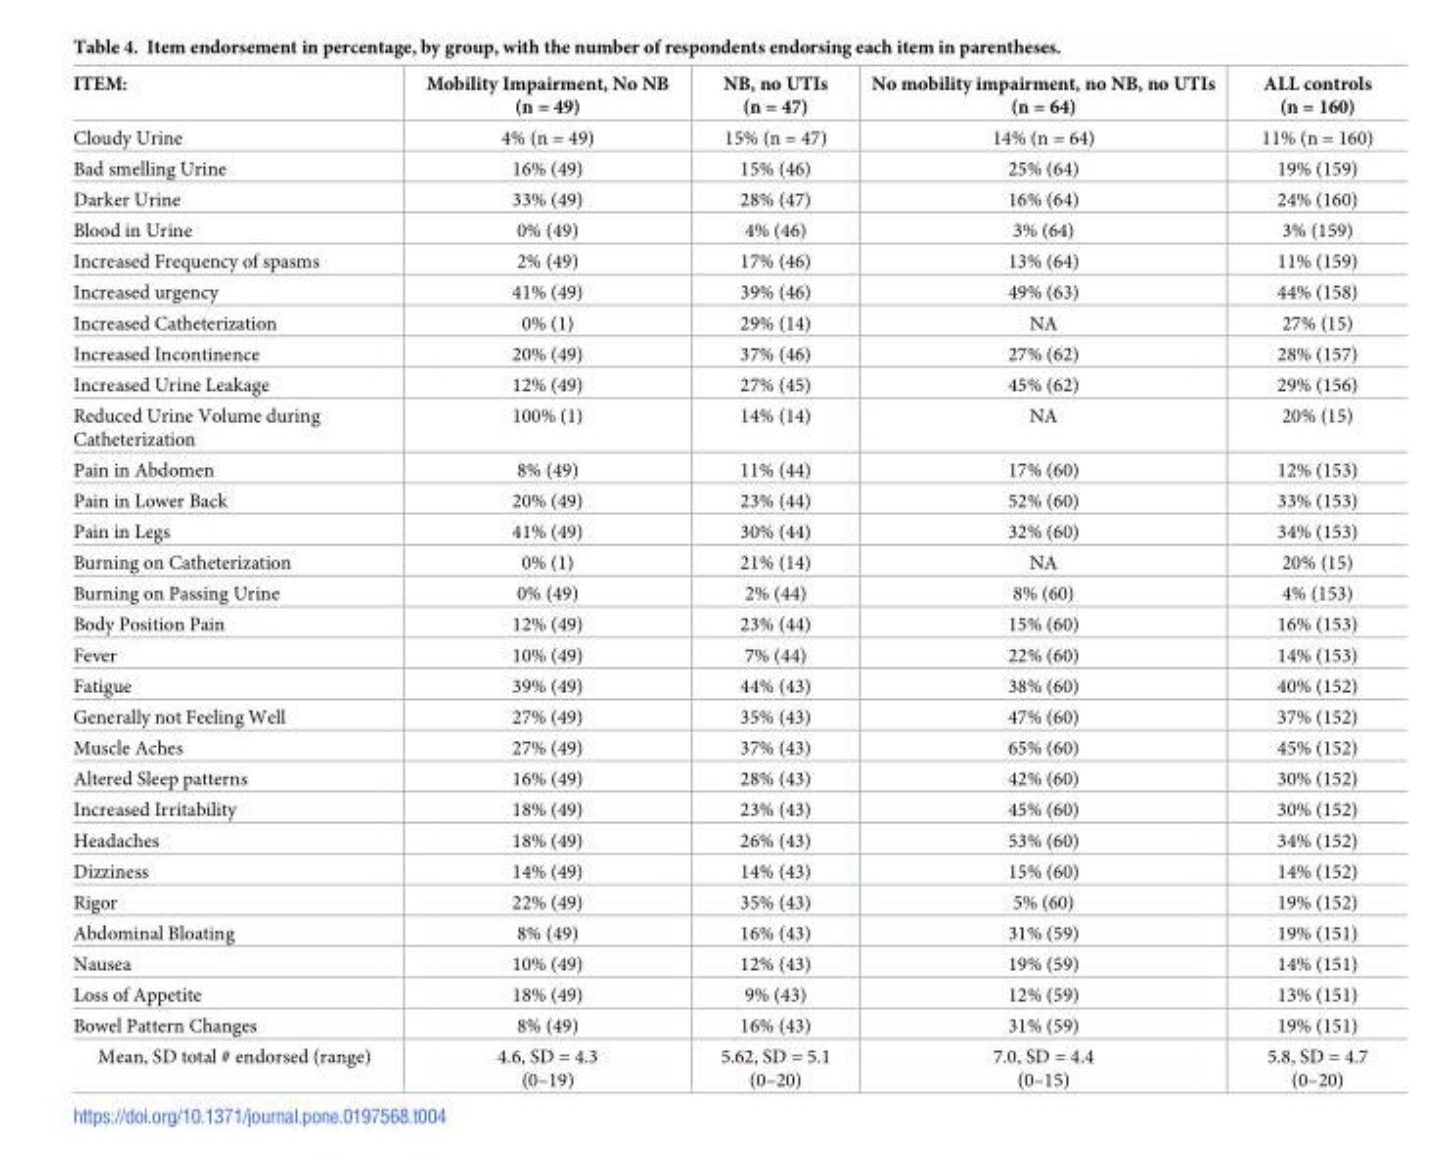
<table><thead><tr><td>ITEM:</td><td>Mobility Impairment, No NB (n = 49)</td><td>NB, no UTIs (n = 47)</td><td>No mobility impairment, no NB, no UTIs (n = 64)</td><td>ALL controls (n = 160)</td></tr></thead><tbody><tr><td>Cloudy Urine</td><td>4% (n = 49)</td><td>15% (n = 47)</td><td>14% (n = 64)</td><td>11% (n = 160)</td></tr><tr><td>Bad smelling Urine</td><td>16% (49)</td><td>15% (46)</td><td>25% (64)</td><td>19% (159)</td></tr><tr><td>Darker Urine</td><td>33% (49)</td><td>28% (47)</td><td>16% (64)</td><td>24% (160)</td></tr><tr><td>Blood in Urine</td><td>0% (49)</td><td>4% (46)</td><td>3% (64)</td><td>3% (159)</td></tr><tr><td>Increased Frequency of spasms</td><td>2% (49)</td><td>17% (46)</td><td>13% (64)</td><td>11% (159)</td></tr><tr><td>Increased urgency</td><td>41% (49)</td><td>39% (46)</td><td>49% (63)</td><td>44% (158)</td></tr><tr><td>Increased Catheterization</td><td>0% (1)</td><td>29% (14)</td><td>NA</td><td>27% (15)</td></tr><tr><td>Increased Incontinence</td><td>20% (49)</td><td>37% (46)</td><td>27% (62)</td><td>28% (157)</td></tr><tr><td>Increased Urine Leakage</td><td>12% (49)</td><td>27% (45)</td><td>45% (62)</td><td>29% (156)</td></tr><tr><td>Reduced Urine Volume during Catheterization</td><td>100% (1)</td><td>14% (14)</td><td>NA</td><td>20% (15)</td></tr><tr><td>Pain in Abdomen</td><td>8% (49)</td><td>11% (44)</td><td>17% (60)</td><td>12% (153)</td></tr><tr><td>Pain in Lower Back</td><td>20% (49)</td><td>23% (44)</td><td>52% (60)</td><td>33% (153)</td></tr><tr><td>Pain in Legs</td><td>41% (49)</td><td>30% (44)</td><td>32% (60)</td><td>34% (153)</td></tr><tr><td>Burning on Catheterization</td><td>0% (1)</td><td>21% (14)</td><td>NA</td><td>20% (15)</td></tr><tr><td>Burning on Passing Urine</td><td>0% (49)</td><td>2% (44)</td><td>8% (60)</td><td>4% (153)</td></tr><tr><td>Body Position Pain</td><td>12% (49)</td><td>23% (44)</td><td>15% (60)</td><td>16% (153)</td></tr><tr><td>Fever</td><td>10% (49)</td><td>7% (44)</td><td>22% (60)</td><td>14% (153)</td></tr><tr><td>Fatigue</td><td>39% (49)</td><td>44% (43)</td><td>38% (60)</td><td>40% (152)</td></tr><tr><td>Generally not Feeling Well</td><td>27% (49)</td><td>35% (43)</td><td>47% (60)</td><td>37% (152)</td></tr><tr><td>Muscle Aches</td><td>27% (49)</td><td>37% (43)</td><td>65% (60)</td><td>45% (152)</td></tr><tr><td>Altered Sleep patterns</td><td>16% (49)</td><td>28% (43)</td><td>42% (60)</td><td>30% (152)</td></tr><tr><td>Increased Irritability</td><td>18% (49)</td><td>23% (43)</td><td>45% (60)</td><td>30% (152)</td></tr><tr><td>Headaches</td><td>18% (49)</td><td>26% (43)</td><td>53% (60)</td><td>34% (152)</td></tr><tr><td>Dizziness</td><td>14% (49)</td><td>14% (43)</td><td>15% (60)</td><td>14% (152)</td></tr><tr><td>Rigor</td><td>22% (49)</td><td>35% (43)</td><td>5% (60)</td><td>19% (152)</td></tr><tr><td>Abdominal Bloating</td><td>8% (49)</td><td>16% (43)</td><td>31% (59)</td><td>19% (151)</td></tr><tr><td>Nausea</td><td>10% (49)</td><td>12% (43)</td><td>19% (59)</td><td>14% (151)</td></tr><tr><td>Loss of Appetite</td><td>18% (49)</td><td>9% (43)</td><td>12% (59)</td><td>13% (151)</td></tr><tr><td>Bowel Pattern Changes</td><td>8% (49)</td><td>16% (43)</td><td>31% (59)</td><td>19% (151)</td></tr><tr><td>Mean, SD total # endorsed (range)</td><td>4.6, SD = 4.3 (0–19)</td><td>5.62, SD = 5.1 (0–20)</td><td>7.0, SD = 4.4 (0–15)</td><td>5.8, SD = 4.7 (0–20)</td></tr></tbody></table>